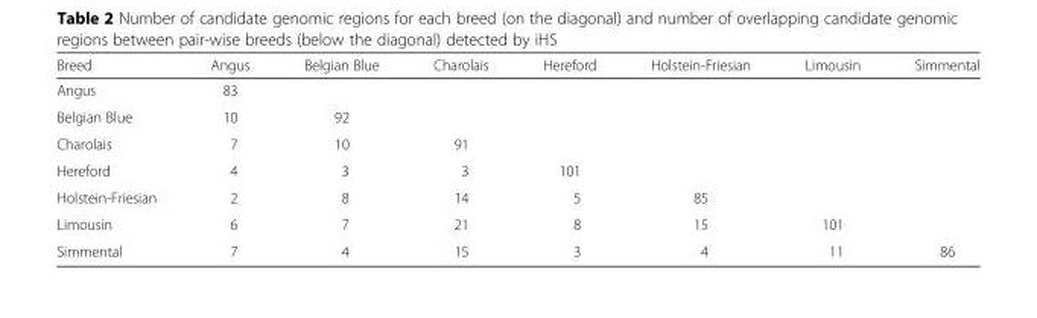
<table><thead><tr><td>Breed</td><td>Angus</td><td>Belgian Blue</td><td>Charolais</td><td>Hereford</td><td>Holstein-Friesian</td><td>Limousin</td><td>Simmental</td></tr></thead><tbody><tr><td>Angus</td><td>83</td><td></td><td></td><td></td><td></td><td></td><td></td></tr><tr><td>Belgian Blue</td><td>10</td><td>92</td><td></td><td></td><td></td><td></td><td></td></tr><tr><td>Charolais</td><td>7</td><td>10</td><td>91</td><td></td><td></td><td></td><td></td></tr><tr><td>Hereford</td><td>4</td><td>3</td><td>3</td><td>101</td><td></td><td></td><td></td></tr><tr><td>Holstein-Friesian</td><td>2</td><td>8</td><td>14</td><td>5</td><td>85</td><td></td><td></td></tr><tr><td>Limousin</td><td>6</td><td>7</td><td>21</td><td>8</td><td>15</td><td>101</td><td></td></tr><tr><td>Simmental</td><td>7</td><td>4</td><td>15</td><td>3</td><td>4</td><td>11</td><td>86</td></tr></tbody></table>